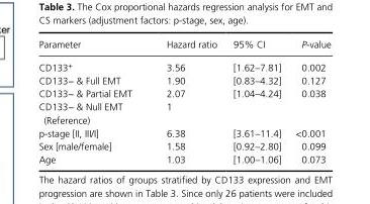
<table><thead><tr><td>Parameter</td><td>Hazard ratio</td><td>95% CI</td><td>P- value</td></tr></thead><tbody><tr><td>CD133<sup>+</sup></td><td>3.56</td><td>[1.62–7.81]</td><td>0.002</td></tr><tr><td>CD133− &amp; Full EMT</td><td>1.90</td><td>[0.83–4.32]</td><td>0.127</td></tr><tr><td>CD133− &amp; Partial EMT</td><td>2.07</td><td>[1.04–4.24]</td><td>0.038</td></tr><tr><td>CD133− &amp; Null EMT (Reference)</td><td>1</td><td></td><td></td></tr><tr><td>p- stage [II, III/I]</td><td>6.38</td><td>[3.61–11.4]</td><td>&lt;0.001</td></tr><tr><td>Sex [male/female]</td><td>1.58</td><td>[0.92–2.80]</td><td>0.099</td></tr><tr><td>Age</td><td>1.03</td><td>[1.00–1.06]</td><td>0.073</td></tr></tbody></table>